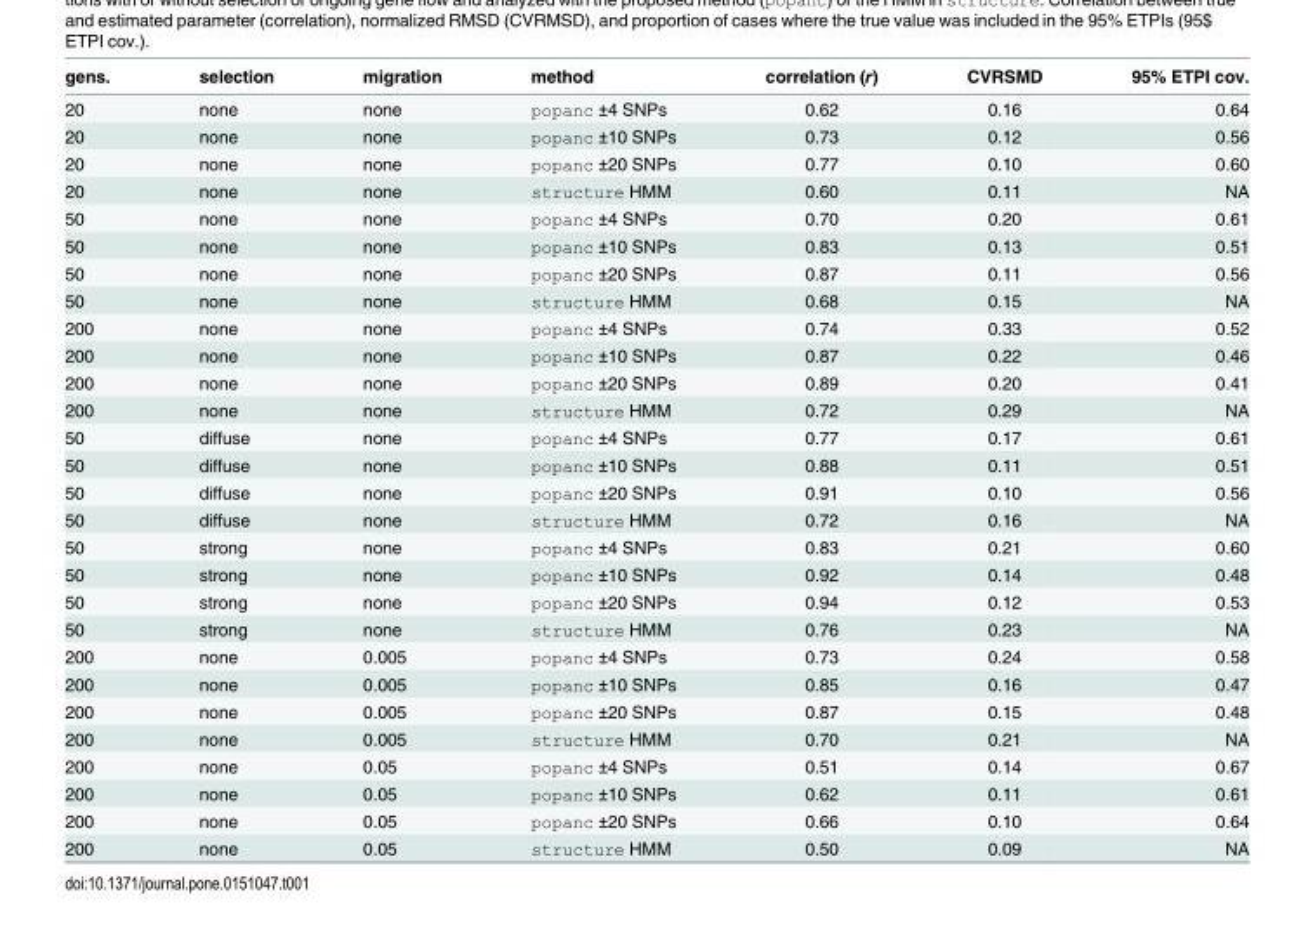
<table><thead><tr><td>gens.</td><td>selection</td><td>migration</td><td>method</td><td>correlation (r)</td><td>CVRSMD</td><td>95% ETPI cov.</td></tr></thead><tbody><tr><td>20</td><td>none</td><td>none</td><td>popanc ±4 SNPs</td><td>0.62</td><td>0.16</td><td>0.64</td></tr><tr><td>20</td><td>none</td><td>none</td><td>popanc ±10 SNPs</td><td>0.73</td><td>0.12</td><td>0.56</td></tr><tr><td>20</td><td>none</td><td>none</td><td>popanc ±20 SNPs</td><td>0.77</td><td>0.10</td><td>0.60</td></tr><tr><td>20</td><td>none</td><td>none</td><td>structure HMM</td><td>0.60</td><td>0.11</td><td>NA</td></tr><tr><td>50</td><td>none</td><td>none</td><td>popanc ±4 SNPs</td><td>0.70</td><td>0.20</td><td>0.61</td></tr><tr><td>50</td><td>none</td><td>none</td><td>popanc ±10 SNPs</td><td>0.83</td><td>0.13</td><td>0.51</td></tr><tr><td>50</td><td>none</td><td>none</td><td>popanc ±20 SNPs</td><td>0.87</td><td>0.11</td><td>0.56</td></tr><tr><td>50</td><td>none</td><td>none</td><td>structure HMM</td><td>0.68</td><td>0.15</td><td>NA</td></tr><tr><td>200</td><td>none</td><td>none</td><td>popanc ±4 SNPs</td><td>0.74</td><td>0.33</td><td>0.52</td></tr><tr><td>200</td><td>none</td><td>none</td><td>popanc ±10 SNPs</td><td>0.87</td><td>0.22</td><td>0.46</td></tr><tr><td>200</td><td>none</td><td>none</td><td>popanc ±20 SNPs</td><td>0.89</td><td>0.20</td><td>0.41</td></tr><tr><td>200</td><td>none</td><td>none</td><td>structure HMM</td><td>0.72</td><td>0.29</td><td>NA</td></tr><tr><td>50</td><td>diffuse</td><td>none</td><td>popanc ±4 SNPs</td><td>0.77</td><td>0.17</td><td>0.61</td></tr><tr><td>50</td><td>diffuse</td><td>none</td><td>popanc ±10 SNPs</td><td>0.88</td><td>0.11</td><td>0.51</td></tr><tr><td>50</td><td>diffuse</td><td>none</td><td>popanc ±20 SNPs</td><td>0.91</td><td>0.10</td><td>0.56</td></tr><tr><td>50</td><td>diffuse</td><td>none</td><td>structure HMM</td><td>0.72</td><td>0.16</td><td>NA</td></tr><tr><td>50</td><td>strong</td><td>none</td><td>popanc ±4 SNPs</td><td>0.83</td><td>0.21</td><td>0.60</td></tr><tr><td>50</td><td>strong</td><td>none</td><td>popanc ±10 SNPs</td><td>0.92</td><td>0.14</td><td>0.48</td></tr><tr><td>50</td><td>strong</td><td>none</td><td>popanc ±20 SNPs</td><td>0.94</td><td>0.12</td><td>0.53</td></tr><tr><td>50</td><td>strong</td><td>none</td><td>structure HMM</td><td>0.76</td><td>0.23</td><td>NA</td></tr><tr><td>200</td><td>none</td><td>0.005</td><td>popanc ±4 SNPs</td><td>0.73</td><td>0.24</td><td>0.58</td></tr><tr><td>200</td><td>none</td><td>0.005</td><td>popanc ±10 SNPs</td><td>0.85</td><td>0.16</td><td>0.47</td></tr><tr><td>200</td><td>none</td><td>0.005</td><td>popanc ±20 SNPs</td><td>0.87</td><td>0.15</td><td>0.48</td></tr><tr><td>200</td><td>none</td><td>0.005</td><td>structure HMM</td><td>0.70</td><td>0.21</td><td>NA</td></tr><tr><td>200</td><td>none</td><td>0.05</td><td>popanc ±4 SNPs</td><td>0.51</td><td>0.14</td><td>0.67</td></tr><tr><td>200</td><td>none</td><td>0.05</td><td>popanc ±10 SNPs</td><td>0.62</td><td>0.11</td><td>0.61</td></tr><tr><td>200</td><td>none</td><td>0.05</td><td>popanc ±20 SNPs</td><td>0.66</td><td>0.10</td><td>0.64</td></tr><tr><td>200</td><td>none</td><td>0.05</td><td>structure HMM</td><td>0.50</td><td>0.09</td><td>NA</td></tr></tbody></table>